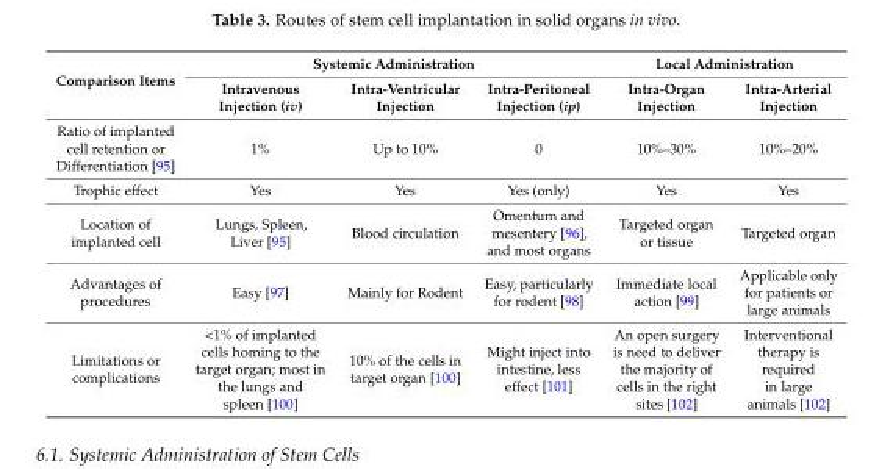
<table><thead><tr><td rowspan="2">Comparison Items</td><td colspan="3">Systemic Administration</td><td colspan="2">Local Administration</td></tr><tr><td>Intravenous Injection (iv)</td><td>Intra-Ventricular Injection</td><td>Intra-Peritoneal Injection (ip)</td><td>Intra-Organ Injection</td><td>Intra-Arterial Injection</td></tr></thead><tbody><tr><td>Ratio of implanted cell retention or Differentiation [95]</td><td>1%</td><td>Up to 10%</td><td>0</td><td>10%–30%</td><td>10%–20%</td></tr><tr><td>Trophic effect</td><td>Yes</td><td>Yes</td><td>Yes (only)</td><td>Yes</td><td>Yes</td></tr><tr><td>Location of implanted cell</td><td>Lungs, Spleen, Liver [95]</td><td>Blood circulation</td><td>Omentum and mesentery [96], and most organs</td><td>Targeted organ or tissue</td><td>Targeted organ</td></tr><tr><td>Advantages of procedures</td><td>Easy [97]</td><td>Mainly for Rodent</td><td>Easy, particularly for rodent [98]</td><td>Immediate local action [99]</td><td>Applicable only for patients or large animals</td></tr><tr><td>Limitations or complications</td><td>&lt;1% of implanted cells homing to the target organ; most in the lungs and spleen [100]</td><td>10% of the cells in target organ [100]</td><td>Might inject into intestine, less effect [101]</td><td>An open surgery is need to deliver the majority of cells in the right sites [102]</td><td>Interventional therapy is required in large animals [102]</td></tr></tbody></table>